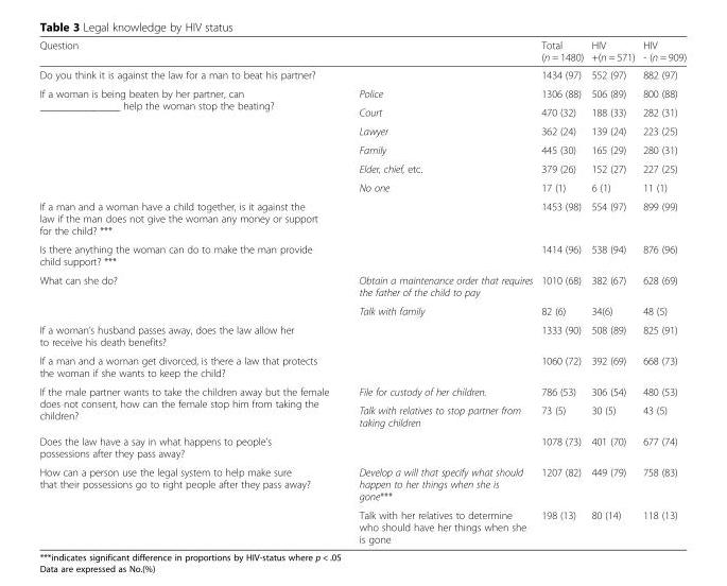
<table><thead><tr><td>Question</td><td></td><td>Total (n = 1480)</td><td>HIV +(n = 571)</td><td>HIV - (n = 909)</td></tr></thead><tbody><tr><td colspan="2">Do you think it is against the law for a man to beat his partner?</td><td>1434 (97)</td><td>552 (97)</td><td>882 (97)</td></tr><tr><td rowspan="6">If a woman is being beaten by her partner, can _______________ help the woman stop the beating?</td><td>Police</td><td>1306 (88)</td><td>506 (89)</td><td>800 (88)</td></tr><tr><td>Court</td><td>470 (32)</td><td>188 (33)</td><td>282 (31)</td></tr><tr><td>Lawyer</td><td>362 (24)</td><td>139 (24)</td><td>223 (25)</td></tr><tr><td>Family</td><td>445 (30)</td><td>165 (29)</td><td>280 (31)</td></tr><tr><td>Elder, chief, etc.</td><td>379 (26)</td><td>152 (27)</td><td>227 (25)</td></tr><tr><td>No one</td><td>17 (1)</td><td>6 (1)</td><td>11 (1)</td></tr><tr><td colspan="2">If a man and a woman have a child together, is it against the law if the man does not give the woman any money or support for the child? ***</td><td>1453 (98)</td><td>554 (97)</td><td>899 (99)</td></tr><tr><td colspan="2">Is there anything the woman can do to make the man provide child support? ***</td><td>1414 (96)</td><td>538 (94)</td><td>876 (96)</td></tr><tr><td rowspan="2">What can she do?</td><td>Obtain a maintenance order that requires the father of the child to pay</td><td>1010 (68)</td><td>382 (67)</td><td>628 (69)</td></tr><tr><td>Talk with family</td><td>82 (6)</td><td>34(6)</td><td>48 (5)</td></tr><tr><td colspan="2">If a woman’s husband passes away, does the law allow her to receive his death benefits?</td><td>1333 (90)</td><td>508 (89)</td><td>825 (91)</td></tr><tr><td colspan="2">If a man and a woman get divorced, is there a law that protects the woman if she wants to keep the child?</td><td>1060 (72)</td><td>392 (69)</td><td>668 (73)</td></tr><tr><td rowspan="2">If the male partner wants to take the children away but the female does not consent, how can the female stop him from taking the children?</td><td>File for custody of her children.</td><td>786 (53)</td><td>306 (54)</td><td>480 (53)</td></tr><tr><td>Talk with relatives to stop partner from taking children</td><td>73 (5)</td><td>30 (5)</td><td>43 (5)</td></tr><tr><td colspan="2">Does the law have a say in what happens to people’s possessions after they pass away?</td><td>1078 (73)</td><td>401 (70)</td><td>677 (74)</td></tr><tr><td rowspan="2">How can a person use the legal system to help make sure that their possessions go to right people after they pass away?</td><td>Develop a will that specify what should happen to her things when she is gone***</td><td>1207 (82)</td><td>449 (79)</td><td>758 (83)</td></tr><tr><td>Talk with her relatives to determine who should have her things when she is gone</td><td>198 (13)</td><td>80 (14)</td><td>118 (13)</td></tr></tbody></table>